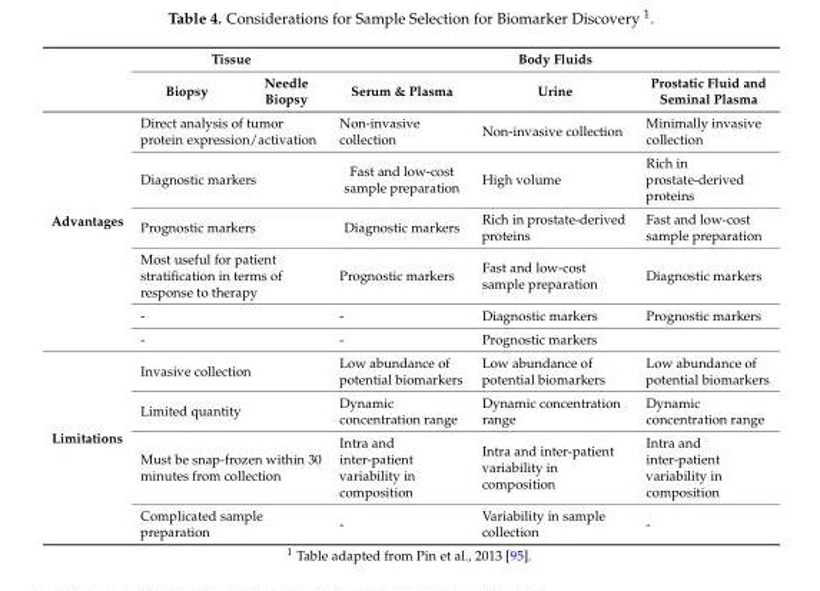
<table><thead><tr><td rowspan="2"></td><td colspan="2">Tissue</td><td colspan="3">Body Fluids</td></tr><tr><td>Biopsy</td><td>Needle Biopsy</td><td>Serum &amp; Plasma</td><td>Urine</td><td>Prostatic Fluid and Seminal Plasma</td></tr></thead><tbody><tr><td rowspan="6">Advantages</td><td colspan="2">Direct analysis of tumor protein expression/activation</td><td>Non-invasive collection</td><td>Non-invasive collection</td><td>Minimally invasive collection</td></tr><tr><td colspan="2">Diagnostic markers</td><td>Fast and low-cost sample preparation</td><td>High volume</td><td>Rich in prostate-derived proteins</td></tr><tr><td colspan="2">Prognostic markers</td><td>Diagnostic markers</td><td>Rich in prostate-derived proteins</td><td>Fast and low-cost sample preparation</td></tr><tr><td colspan="2">Most useful for patient stratification in terms of response to therapy</td><td>Prognostic markers</td><td>Fast and low-cost sample preparation</td><td>Diagnostic markers</td></tr><tr><td colspan="2">-</td><td>-</td><td>Diagnostic markers</td><td>Prognostic markers</td></tr><tr><td colspan="2">-</td><td>-</td><td>Prognostic markers</td><td></td></tr><tr><td rowspan="4">Limitations</td><td colspan="2">Invasive collection</td><td>Low abundance of potential biomarkers</td><td>Low abundance of potential biomarkers</td><td>Low abundance of potential biomarkers</td></tr><tr><td colspan="2">Limited quantity</td><td>Dynamic concentration range</td><td>Dynamic concentration range</td><td>Dynamic concentration range</td></tr><tr><td colspan="2">Must be snap-frozen within 30 minutes from collection</td><td>Intra and inter-patient variability in composition</td><td>Intra and inter-patient variability in composition</td><td>Intra and inter-patient variability in composition</td></tr><tr><td colspan="2">Complicated sample preparation</td><td>-</td><td>Variability in sample collection</td><td>-</td></tr></tbody></table>